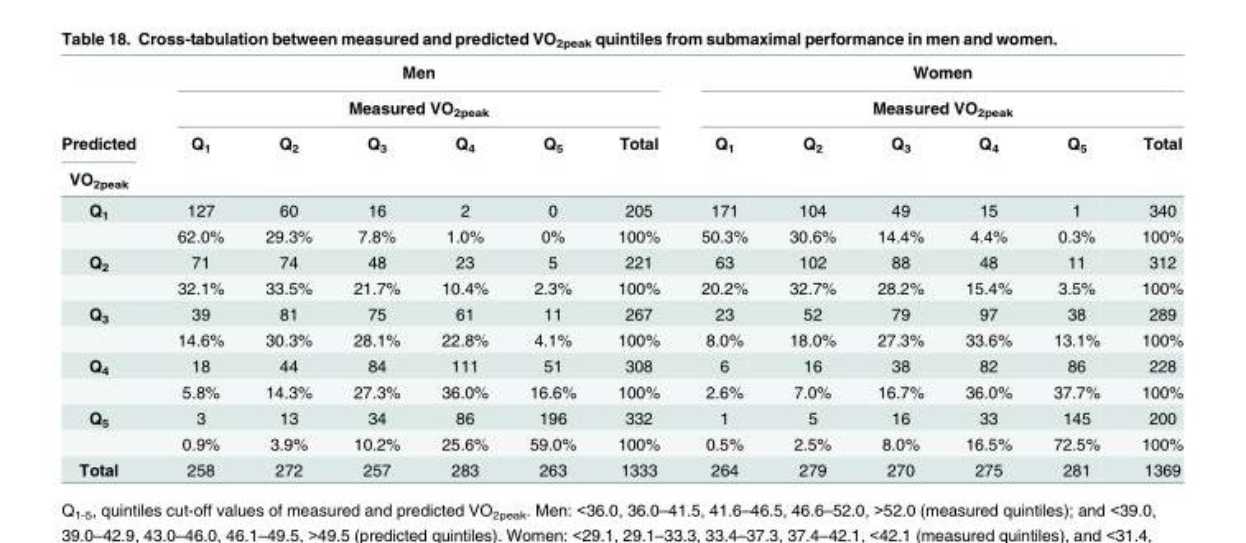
<table><thead><tr><td rowspan="4">Predicted VO<sub>2peak</sub></td><td rowspan="2" colspan="6">Men Measured VO<sub>2peak</sub></td><td rowspan="2" colspan="6">Women Measured VO<sub>2peak</sub></td></tr><tr></tr><tr><td rowspan="2">Q1</td><td rowspan="2">Q<sub>2</sub></td><td rowspan="2">Q<sub>3</sub></td><td rowspan="2">Q<sub>4</sub></td><td rowspan="2">Q<sub>5</sub></td><td rowspan="2">Total</td><td rowspan="2">Q<sub>1</sub></td><td rowspan="2">Q<sub>2</sub></td><td rowspan="2">Q<sub>3</sub></td><td rowspan="2">Q<sub>4</sub></td><td rowspan="2">Q<sub>5</sub></td><td rowspan="2">Total</td></tr><tr></tr></thead><tbody><tr><td rowspan="2">Q1</td><td>127</td><td>60</td><td>16</td><td>2</td><td>0</td><td>205</td><td>171</td><td>104</td><td>49</td><td>15</td><td>1</td><td>340</td></tr><tr><td>62.0%</td><td>29.3%</td><td>7.8%</td><td>1.0%</td><td>0%</td><td>100%</td><td>50.3%</td><td>30.6%</td><td>14.4%</td><td>4.4%</td><td>0.3%</td><td>100%</td></tr><tr><td rowspan="2">Q<sub>2</sub></td><td>71</td><td>74</td><td>48</td><td>23</td><td>5</td><td>221</td><td>63</td><td>102</td><td>88</td><td>48</td><td>11</td><td>312</td></tr><tr><td>32.1%</td><td>33.5%</td><td>21.7%</td><td>10.4%</td><td>2.3%</td><td>100%</td><td>20.2%</td><td>32.7%</td><td>28.2%</td><td>15.4%</td><td>3.5%</td><td>100%</td></tr><tr><td rowspan="2">Q<sub>3</sub></td><td>39</td><td>81</td><td>75</td><td>61</td><td>11</td><td>267</td><td>23</td><td>52</td><td>79</td><td>97</td><td>38</td><td>289</td></tr><tr><td>14.6%</td><td>30.3%</td><td>28.1%</td><td>22.8%</td><td>4.1%</td><td>100%</td><td>8.0%</td><td>18.0%</td><td>27.3%</td><td>33.6%</td><td>13.1%</td><td>100%</td></tr><tr><td rowspan="2">Q<sub>4</sub></td><td>18</td><td>44</td><td>84</td><td>111</td><td>51</td><td>308</td><td>6</td><td>16</td><td>38</td><td>82</td><td>86</td><td>228</td></tr><tr><td>5.8%</td><td>14.3%</td><td>27.3%</td><td>36.0%</td><td>16.6%</td><td>100%</td><td>2.6%</td><td>7.0%</td><td>16.7%</td><td>36.0%</td><td>37.7%</td><td>100%</td></tr><tr><td rowspan="2">Q<sub>5</sub></td><td>3</td><td>13</td><td>34</td><td>86</td><td>196</td><td>332</td><td>1</td><td>5</td><td>16</td><td>33</td><td>145</td><td>200</td></tr><tr><td>0.9%</td><td>3.9%</td><td>10.2%</td><td>25.6%</td><td>59.0%</td><td>100%</td><td>0.5%</td><td>2.5%</td><td>8.0%</td><td>16.5%</td><td>72.5%</td><td>100%</td></tr><tr><td>Total</td><td>258</td><td>272</td><td>257</td><td>283</td><td>263</td><td>1333</td><td>264</td><td>279</td><td>270</td><td>275</td><td>281</td><td>1369</td></tr></tbody></table>